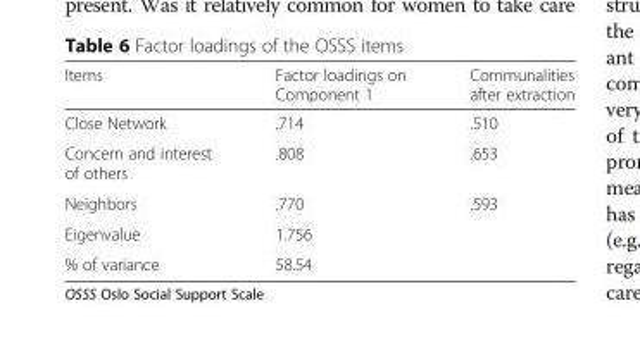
<table><thead><tr><td>Items</td><td>Factor loadings on Component 1</td><td>Communalities after extraction</td></tr></thead><tbody><tr><td>Close Network</td><td>.714</td><td>.510</td></tr><tr><td>Concern and interest of others</td><td>.808</td><td>.653</td></tr><tr><td>Neighbors</td><td>.770</td><td>.593</td></tr><tr><td>Eigenvalue</td><td>1.756</td><td></td></tr><tr><td>% of variance</td><td>58.54</td><td></td></tr></tbody></table>